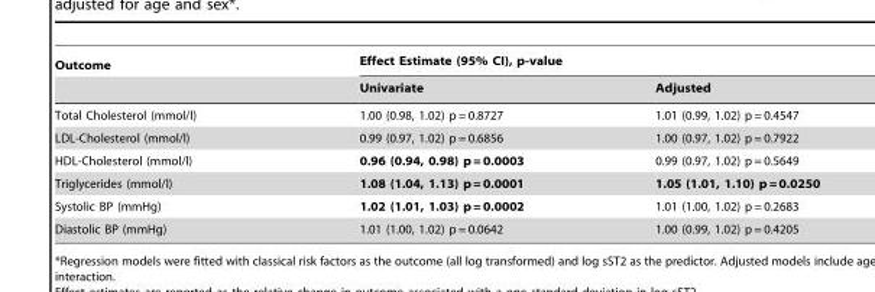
<table><thead><tr><td rowspan="2">Outcome</td><td colspan="2">Effect Estimate (95% CI), p-value</td></tr><tr><td>Univariate</td><td>Adjusted</td></tr></thead><tbody><tr><td>Total Cholesterol (mmol/l)</td><td>1.00 (0.98, 1.02) p = 0.8727</td><td>1.01 (0.99, 1.02) p = 0.4547</td></tr><tr><td>LDL-Cholesterol (mmol/l)</td><td>0.99 (0.97, 1.02) p = 0.6856</td><td>1.00 (0.97, 1.02) p = 0.7922</td></tr><tr><td>HDL-Cholesterol (mmol/l)</td><td>0.96 (0.94, 0.98) p = 0.0003</td><td>0.99 (0.97, 1.02) p = 0.5649</td></tr><tr><td>Triglycerides (mmol/l)</td><td>1.08 (1.04, 1.13) p = 0.0001</td><td>1.05 (1.01, 1.10) p = 0.0250</td></tr><tr><td>Systolic BP (mmHg)</td><td>1.02 (1.01, 1.03) p = 0.0002</td><td>1.01 (1.00, 1.02) p = 0.2683</td></tr><tr><td>Diastolic BP (mmHg)</td><td>1.01 (1.00, 1.02) p = 0.0642</td><td>1.00 (0.99, 1.02) p = 0.4205</td></tr></tbody></table>